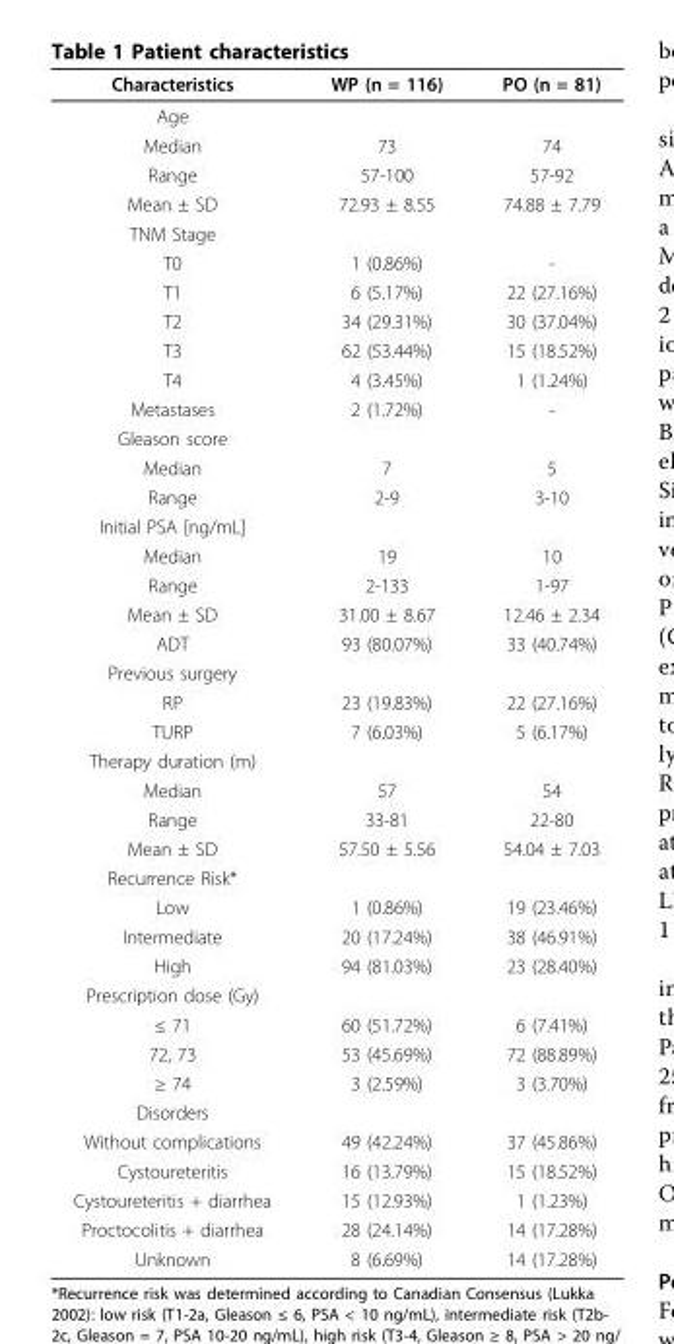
<table><thead><tr><td>Characteristics</td><td>WP (n = 116)</td><td>PO (n = 81)</td></tr></thead><tbody><tr><td colspan="3">Age</td></tr><tr><td>Median</td><td>73</td><td>74</td></tr><tr><td>Range</td><td>57-100</td><td>57-92</td></tr><tr><td>Mean ± SD</td><td>72.93 ± 8.55</td><td>74.88 ± 7.79</td></tr><tr><td colspan="3">TNM Stage</td></tr><tr><td>T0</td><td>1 (0.86%)</td><td>-</td></tr><tr><td>T1</td><td>6 (5.17%)</td><td>22 (27.16%)</td></tr><tr><td>T2</td><td>34 (29.31%)</td><td>30 (37.04%)</td></tr><tr><td>T3</td><td>62 (53.44%)</td><td>15 (18.52%)</td></tr><tr><td>T4</td><td>4 (3.45%)</td><td>1 (1.24%)</td></tr><tr><td>Metastases</td><td>2 (1.72%)</td><td>-</td></tr><tr><td colspan="3">Gleason score</td></tr><tr><td>Median</td><td>7</td><td>5</td></tr><tr><td>Range</td><td>2-9</td><td>3-10</td></tr><tr><td colspan="3">Initial PSA [ng/mL]</td></tr><tr><td>Median</td><td>19</td><td>10</td></tr><tr><td>Range</td><td>2-133</td><td>1-97</td></tr><tr><td>Mean ± SD</td><td>31.00 ± 8.67</td><td>12.46 ± 2.34</td></tr><tr><td>ADT</td><td>93 (80.07%)</td><td>33 (40.74%)</td></tr><tr><td colspan="3">Previous surgery</td></tr><tr><td>RP</td><td>23 (19.83%)</td><td>22 (27.16%)</td></tr><tr><td>TURP</td><td>7 (6.03%)</td><td>5 (6.17%)</td></tr><tr><td colspan="3">Therapy duration (m)</td></tr><tr><td>Median</td><td>57</td><td>54</td></tr><tr><td>Range</td><td>33-81</td><td>22-80</td></tr><tr><td>Mean ± SD</td><td>57.50 ± 5.56</td><td>54.04 ± 7.03</td></tr><tr><td colspan="3">Recurrence Risk*</td></tr><tr><td>Low</td><td>1 (0.86%)</td><td>19 (23.46%)</td></tr><tr><td>Intermediate</td><td>20 (17.24%)</td><td>38 (46.91%)</td></tr><tr><td>High</td><td>94 (81.03%)</td><td>23 (28.40%)</td></tr><tr><td colspan="3">Prescription dose (Gy)</td></tr><tr><td>≤ 71</td><td>60 (51.72%)</td><td>6 (7.41%)</td></tr><tr><td>72, 73</td><td>53 (45.69%)</td><td>72 (88.89%)</td></tr><tr><td>≥ 74</td><td>3 (2.59%)</td><td>3 (3.70%)</td></tr><tr><td colspan="3">Disorders</td></tr><tr><td>Without complications</td><td>49 (42.24%)</td><td>37 (45.86%)</td></tr><tr><td>Cystoureteritis</td><td>16 (13.79%)</td><td>15 (18.52%)</td></tr><tr><td>Cystoureteritis + diarrhea</td><td>15 (12.93%)</td><td>1 (1.23%)</td></tr><tr><td>Proctocolitis + diarrhea</td><td>28 (24.14%)</td><td>14 (17.28%)</td></tr><tr><td>Unknown</td><td>8 (6.69%)</td><td>14 (17.28%)</td></tr></tbody></table>